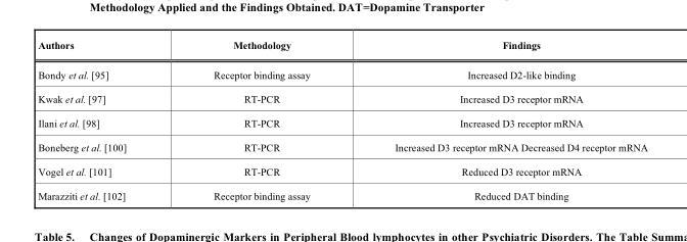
<table><thead><tr><td>Authors</td><td>Methodology</td><td>Findings</td></tr></thead><tbody><tr><td>Bondy et al. [95]</td><td>Receptor binding assay</td><td>Increased D2-like binding</td></tr><tr><td>Kwak et al. [97]</td><td>RT-PCR</td><td>Increased D3 receptor mRNA</td></tr><tr><td>Ilani et al. [98]</td><td>RT-PCR</td><td>Increased D3 receptor mRNA</td></tr><tr><td>Boneberg et al. [100]</td><td>RT-PCR</td><td>Increased D3 receptor mRNA Decreased D4 receptor mRNA</td></tr><tr><td>Vogel et al. [101]</td><td>RT-PCR</td><td>Reduced D3 receptor mRNA</td></tr><tr><td>Marazziti et al. [102]</td><td>Receptor binding assay</td><td>Reduced DAT binding</td></tr></tbody></table>